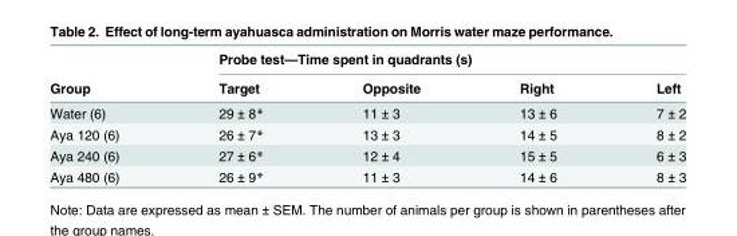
<table><thead><tr><td rowspan="2">Group</td><td colspan="4">Probe test—Time spent in quadrants (s)</td></tr><tr><td>Target</td><td>Opposite</td><td>Right</td><td>Left</td></tr></thead><tbody><tr><td>Water (6)</td><td>29 ± 8*</td><td>11 ± 3</td><td>13 ± 6</td><td>7 ± 2</td></tr><tr><td>Aya 120 (6)</td><td>26 ± 7*</td><td>13 ± 3</td><td>14 ± 5</td><td>8 ± 2</td></tr><tr><td>Aya 240 (6)</td><td>27 ± 6*</td><td>12 ± 4</td><td>15 ± 5</td><td>6 ± 3</td></tr><tr><td>Aya 480 (6)</td><td>26 ± 9*</td><td>11 ± 3</td><td>14 ± 6</td><td>8 ± 3</td></tr></tbody></table>